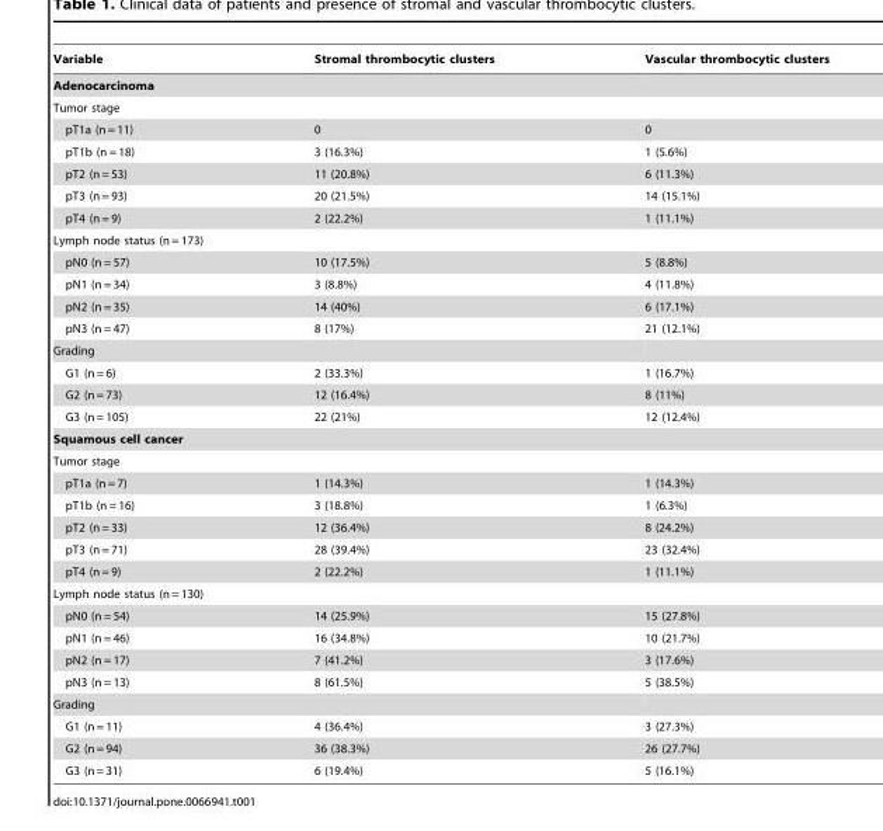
<table><thead><tr><td>Variable</td><td>Stromal thrombocytic clusters</td><td>Vascular thrombocytic clusters</td></tr></thead><tbody><tr><td colspan="3">Adenocarcinoma</td></tr><tr><td colspan="3">Tumor stage</td></tr><tr><td>pT1a (n = 11)</td><td>0</td><td>0</td></tr><tr><td>pT1b (n = 18)</td><td>3 (16.3%)</td><td>1 (5.6%)</td></tr><tr><td>pT2 (n = 53)</td><td>11 (20.8%)</td><td>6 (11.3%)</td></tr><tr><td>pT3 (n = 93)</td><td>20 (21.5%)</td><td>14 (15.1%)</td></tr><tr><td>pT4 (n = 9)</td><td>2 (22.2%)</td><td>1 (11.1%)</td></tr><tr><td colspan="3">Lymph node status (n = 173)</td></tr><tr><td>pN0 (n = 57)</td><td>10 (17.5%)</td><td>5 (8.8%)</td></tr><tr><td>pN1 (n = 34)</td><td>3 (8.8%)</td><td>4 (11.8%)</td></tr><tr><td>pN2 (n = 35)</td><td>14 (40%)</td><td>6 (17.1%)</td></tr><tr><td>pN3 (n = 47)</td><td>8 (17%)</td><td>21 (12.1%)</td></tr><tr><td colspan="3">Grading</td></tr><tr><td>G1 (n = 6)</td><td>2 (33.3%)</td><td>1 (16.7%)</td></tr><tr><td>G2 (n = 73)</td><td>12 (16.4%)</td><td>8 (11%)</td></tr><tr><td>G3 (n = 105)</td><td>22 (21%)</td><td>12 (12.4%)</td></tr><tr><td colspan="3">Squamous cell cancer</td></tr><tr><td colspan="3">Tumor stage</td></tr><tr><td>pT1a (n = 7)</td><td>1 (14.3%)</td><td>1 (14.3%)</td></tr><tr><td>pT1b (n = 16)</td><td>3 (18.8%)</td><td>1 (6.3%)</td></tr><tr><td>pT2 (n = 33)</td><td>12 (36.4%)</td><td>8 (24.2%)</td></tr><tr><td>pT3 (n = 71)</td><td>28 (39.4%)</td><td>23 (32.4%)</td></tr><tr><td>pT4 (n = 9)</td><td>2 (22.2%)</td><td>1 (11.1%)</td></tr><tr><td colspan="3">Lymph node status (n = 130)</td></tr><tr><td>pN0 (n = 54)</td><td>14 (25.9%)</td><td>15 (27.8%)</td></tr><tr><td>pN1 (n = 46)</td><td>16 (34.8%)</td><td>10 (21.7%)</td></tr><tr><td>pN2 (n = 17)</td><td>7 (41.2%)</td><td>3 (17.6%)</td></tr><tr><td>pN3 (n = 13)</td><td>8 (61.5%)</td><td>5 (38.5%)</td></tr><tr><td colspan="3">Grading</td></tr><tr><td>G1 (n = 11)</td><td>4 (36.4%)</td><td>3 (27.3%)</td></tr><tr><td>G2 (n = 94)</td><td>36 (38.3%)</td><td>26 (27.7%)</td></tr><tr><td>G3 (n = 31)</td><td>6 (19.4%)</td><td>5 (16.1%)</td></tr></tbody></table>